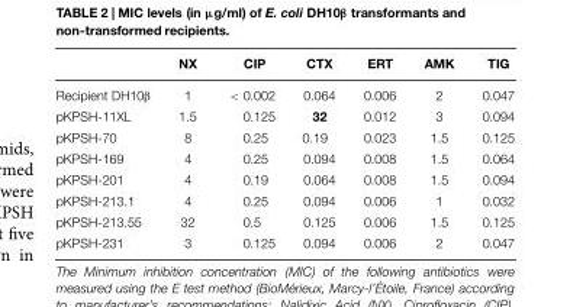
<table><thead><tr><td></td><td>NX</td><td>CIP</td><td>CTX</td><td>ERT</td><td>AMK</td><td>TIG</td></tr></thead><tbody><tr><td>Recipient DH10β</td><td>1</td><td>&lt; 0.002</td><td>0.064</td><td>0.006</td><td>2</td><td>0.047</td></tr><tr><td>pKPSH-11XL</td><td>1.5</td><td>0.125</td><td>32</td><td>0.012</td><td>3</td><td>0.094</td></tr><tr><td>pKPSH-70</td><td>8</td><td>0.25</td><td>0.19</td><td>0.023</td><td>1.5</td><td>0.125</td></tr><tr><td>pKPSH-169</td><td>4</td><td>0.25</td><td>0.094</td><td>0.008</td><td>1.5</td><td>0.064</td></tr><tr><td>pKPSH-201</td><td>4</td><td>0.19</td><td>0.064</td><td>0.008</td><td>1.5</td><td>0.094</td></tr><tr><td>pKPSH-213.1</td><td>4</td><td>0.25</td><td>0.094</td><td>0.006</td><td>1</td><td>0.032</td></tr><tr><td>pKPSH-213.55</td><td>32</td><td>0.5</td><td>0.125</td><td>0.006</td><td>1.5</td><td>0.125</td></tr><tr><td>pKPSH-231</td><td>3</td><td>0.125</td><td>0.094</td><td>0.006</td><td>2</td><td>0.047</td></tr></tbody></table>